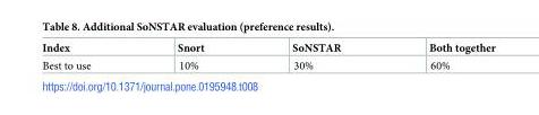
<table><thead><tr><td>Index</td><td>Snort</td><td>SoNSTAR</td><td>Both together</td></tr></thead><tbody><tr><td>Best to use</td><td>10%</td><td>30%</td><td>60%</td></tr></tbody></table>